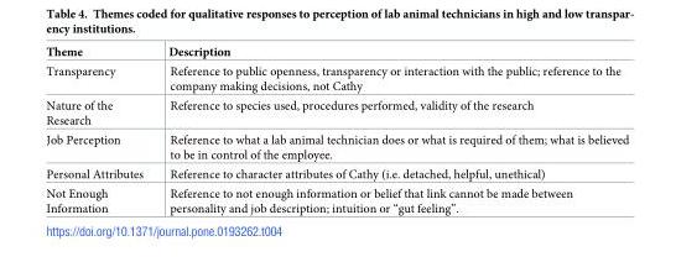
<table><thead><tr><td>Theme</td><td>Description</td></tr></thead><tbody><tr><td>Transparency</td><td>Reference to public openness, transparency or interaction with the public; reference to the company making decisions, not Cathy</td></tr><tr><td>Nature of the Research</td><td>Reference to species used, procedures performed, validity of the research</td></tr><tr><td>Job Perception</td><td>Reference to what a lab animal technician does or what is required of them; what is believed to be in control of the employee.</td></tr><tr><td>Personal Attributes</td><td>Reference to character attributes of Cathy (i.e. detached, helpful, unethical)</td></tr><tr><td>Not Enough Information</td><td>Reference to not enough information or belief that link cannot be made between personality and job description; intuition or “gut feeling”.</td></tr></tbody></table>